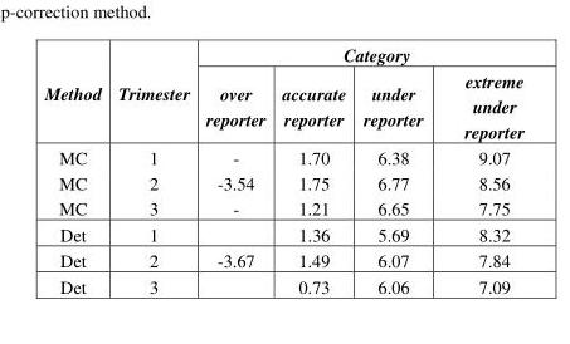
<table><thead><tr><td rowspan="2">Method</td><td rowspan="2">Trimester</td><td colspan="4">Category</td></tr><tr><td>over reporter</td><td>accurate reporter</td><td>under reporter</td><td>extreme under reporter</td></tr></thead><tbody><tr><td>MC</td><td>1</td><td>-</td><td>1.70</td><td>6.38</td><td>9.07</td></tr><tr><td>MC</td><td>2</td><td>-3.54</td><td>1.75</td><td>6.77</td><td>8.56</td></tr><tr><td>MC</td><td>3</td><td>-</td><td>1.21</td><td>6.65</td><td>7.75</td></tr><tr><td>Det</td><td>1</td><td></td><td>1.36</td><td>5.69</td><td>8.32</td></tr><tr><td>Det</td><td>2</td><td>-3.67</td><td>1.49</td><td>6.07</td><td>7.84</td></tr><tr><td>Det</td><td>3</td><td></td><td>0.73</td><td>6.06</td><td>7.09</td></tr></tbody></table>